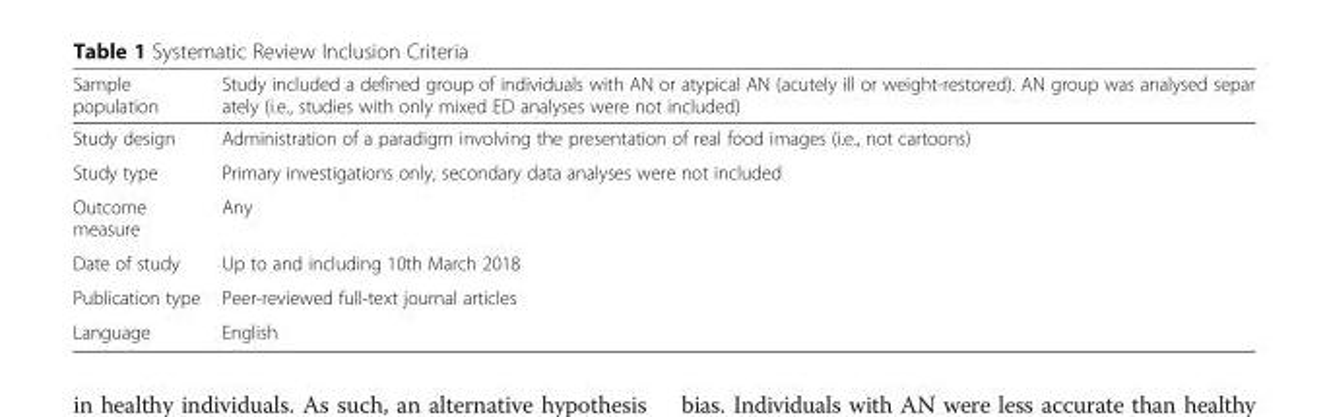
<table><thead><tr><td>Sample population</td><td>Study included a defined group of individuals with AN or atypical AN (acutely ill or weight-restored). AN group was analysed separ ately (i.e., studies with only mixed ED analyses were not included)</td></tr></thead><tbody><tr><td>Study design</td><td>Administration of a paradigm involving the presentation of real food images (i.e., not cartoons)</td></tr><tr><td>Study type</td><td>Primary investigations only, secondary data analyses were not included</td></tr><tr><td>Outcome measure</td><td>Any</td></tr><tr><td>Date of study</td><td>Up to and including 10th March 2018</td></tr><tr><td>Publication type</td><td>Peer-reviewed full-text journal articles</td></tr><tr><td>Language</td><td>English</td></tr></tbody></table>